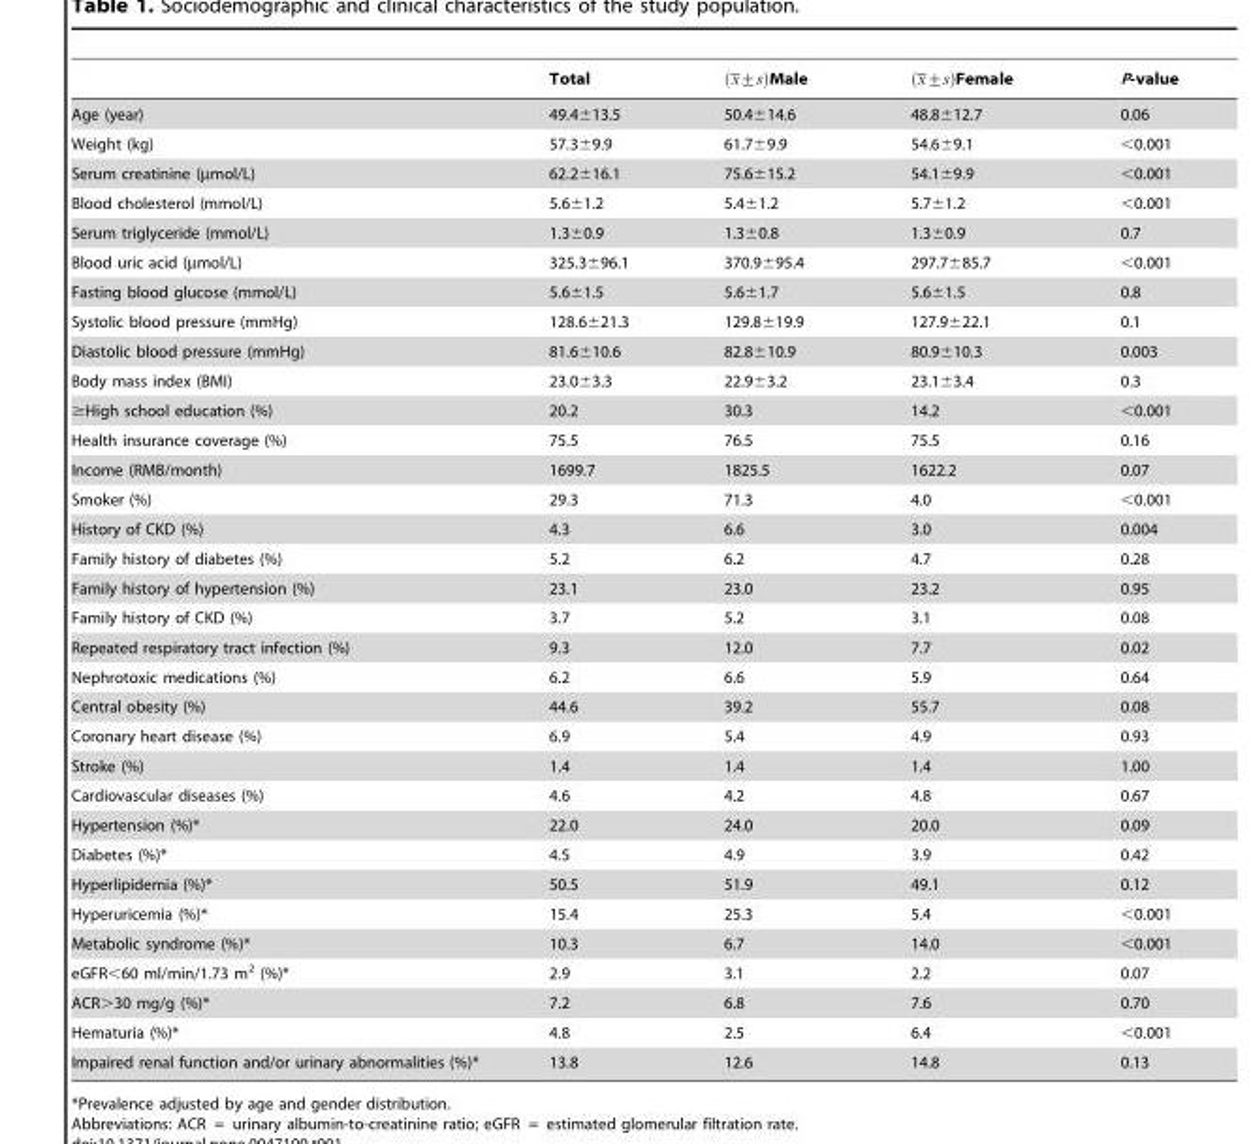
<table><thead><tr><td></td><td>Total</td><td>x ð +sÞMale</td><td>x ð +sÞFemale</td><td>P-value</td></tr></thead><tbody><tr><td>Age (year)</td><td>49.4±13.5</td><td>50.4±14.6</td><td>48.8±12.7</td><td>0.06</td></tr><tr><td>Weight (kg)</td><td>57.3±9.9</td><td>61.7±9.9</td><td>54.6±9.1</td><td>&lt;0.001</td></tr><tr><td>Serum creatinine (µmol/L)</td><td>62.2±16.1</td><td>75.6±15.2</td><td>54.1±9.9</td><td>&lt;0.001</td></tr><tr><td>Blood cholesterol (mmol/L)</td><td>5.6±1.2</td><td>5.4±1.2</td><td>5.7±1.2</td><td>&lt;0.001</td></tr><tr><td>Serum triglyceride (mmol/L)</td><td>1.3±0.9</td><td>1.3±0.8</td><td>1.3±0.9</td><td>0.7</td></tr><tr><td>Blood uric acid (µmol/L)</td><td>325.3±96.1</td><td>370.9±95.4</td><td>297.7±85.7</td><td>&lt;0.001</td></tr><tr><td>Fasting blood glucose (mmol/L)</td><td>5.6±1.5</td><td>5.6±1.7</td><td>5.6±1.5</td><td>0.8</td></tr><tr><td>Systolic blood pressure (mmHg)</td><td>128.6±21.3</td><td>129.8±19.9</td><td>127.9±22.1</td><td>0.1</td></tr><tr><td>Diastolic blood pressure (mmHg)</td><td>81.6±10.6</td><td>82.8±10.9</td><td>80.9±10.3</td><td>0.003</td></tr><tr><td>Body mass index (BMI)</td><td>23.0±3.3</td><td>22.9±3.2</td><td>23.1±3.4</td><td>0.3</td></tr><tr><td>≥High school education (%)</td><td>20.2</td><td>30.3</td><td>14.2</td><td>&lt;0.001</td></tr><tr><td>Health insurance coverage (%)</td><td>75.5</td><td>76.5</td><td>75.5</td><td>0.16</td></tr><tr><td>Income (RMB/month)</td><td>1699.7</td><td>1825.5</td><td>1622.2</td><td>0.07</td></tr><tr><td>Smoker (%)</td><td>29.3</td><td>71.3</td><td>4.0</td><td>&lt;0.001</td></tr><tr><td>History of CKD (%)</td><td>4.3</td><td>6.6</td><td>3.0</td><td>0.004</td></tr><tr><td>Family history of diabetes (%)</td><td>5.2</td><td>6.2</td><td>4.7</td><td>0.28</td></tr><tr><td>Family history of hypertension (%)</td><td>23.1</td><td>23.0</td><td>23.2</td><td>0.95</td></tr><tr><td>Family history of CKD (%)</td><td>3.7</td><td>5.2</td><td>3.1</td><td>0.08</td></tr><tr><td>Repeated respiratory tract infection (%)</td><td>9.3</td><td>12.0</td><td>7.7</td><td>0.02</td></tr><tr><td>Nephrotoxic medications (%)</td><td>6.2</td><td>6.6</td><td>5.9</td><td>0.64</td></tr><tr><td>Central obesity (%)</td><td>44.6</td><td>39.2</td><td>55.7</td><td>0.08</td></tr><tr><td>Coronary heart disease (%)</td><td>6.9</td><td>5.4</td><td>4.9</td><td>0.93</td></tr><tr><td>Stroke (%)</td><td>1.4</td><td>1.4</td><td>1.4</td><td>1.00</td></tr><tr><td>Cardiovascular diseases (%)</td><td>4.6</td><td>4.2</td><td>4.8</td><td>0.67</td></tr><tr><td>Hypertension (%)*</td><td>22.0</td><td>24.0</td><td>20.0</td><td>0.09</td></tr><tr><td>Diabetes (%)*</td><td>4.5</td><td>4.9</td><td>3.9</td><td>0.42</td></tr><tr><td>Hyperlipidemia (%)*</td><td>50.5</td><td>51.9</td><td>49.1</td><td>0.12</td></tr><tr><td>Hyperuricemia (%)*</td><td>15.4</td><td>25.3</td><td>5.4</td><td>&lt;0.001</td></tr><tr><td>Metabolic syndrome (%)*</td><td>10.3</td><td>6.7</td><td>14.0</td><td>&lt;0.001</td></tr><tr><td>eGFR&lt;60 ml/min/1.73 m<sup>2</sup> (%)*</td><td>2.9</td><td>3.1</td><td>2.2</td><td>0.07</td></tr><tr><td>ACR&gt;30 mg/g (%)*</td><td>7.2</td><td>6.8</td><td>7.6</td><td>0.70</td></tr><tr><td>Hematuria (%)*</td><td>4.8</td><td>2.5</td><td>6.4</td><td>&lt;0.001</td></tr><tr><td>Impaired renal function and/or urinary abnormalities (%)*</td><td>13.8</td><td>12.6</td><td>14.8</td><td>0.13</td></tr></tbody></table>